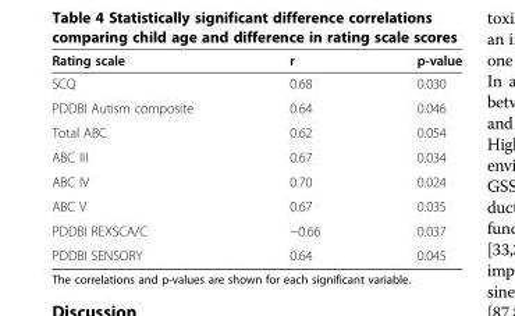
<table><thead><tr><td>Rating scale</td><td>r</td><td>p-value</td></tr></thead><tbody><tr><td>SCQ</td><td>0.68</td><td>0.030</td></tr><tr><td>PDDBI Autism composite</td><td>0.64</td><td>0.046</td></tr><tr><td>Total ABC</td><td>0.62</td><td>0.054</td></tr><tr><td>ABC III</td><td>0.67</td><td>0.034</td></tr><tr><td>ABC IV</td><td>0.70</td><td>0.024</td></tr><tr><td>ABC V</td><td>0.67</td><td>0.035</td></tr><tr><td>PDDBI REXSCA/C</td><td>−0.66</td><td>0.037</td></tr><tr><td>PDDBI SENSORY</td><td>0.64</td><td>0.045</td></tr></tbody></table>